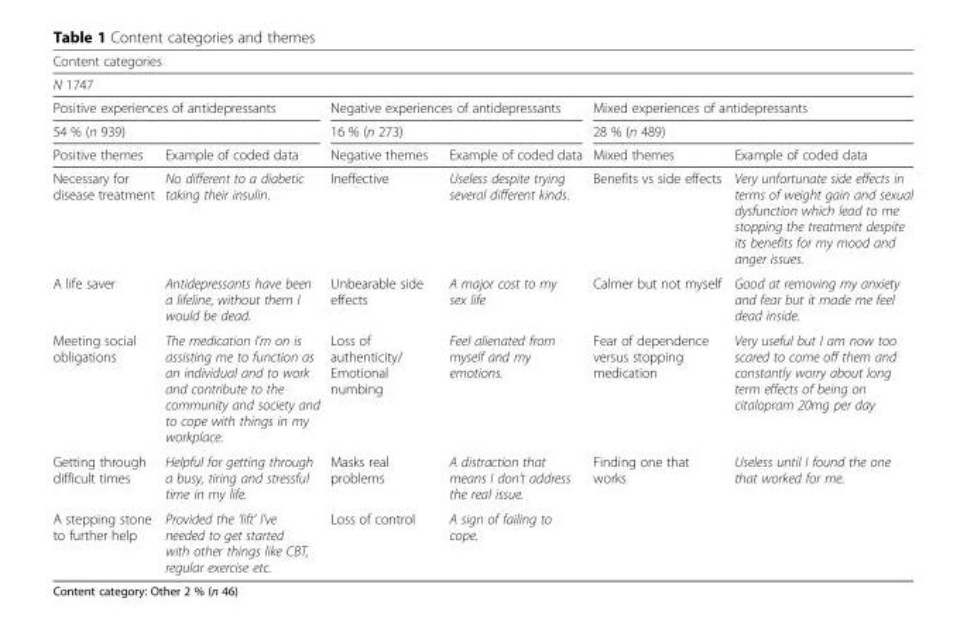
<table><thead><tr><td rowspan="2" colspan="6">Content categories N 1747</td></tr><tr></tr><tr><td rowspan="2" colspan="2">Positive experiences of antidepressants 54 % (n 939)</td><td rowspan="2" colspan="2">Negative experiences of antidepressants 16 % (n 273)</td><td rowspan="2" colspan="2">Mixed experiences of antidepressants 28 % (n 489)</td></tr><tr></tr><tr><td>Positive themes</td><td>Example of coded data</td><td>Negative themes</td><td>Example of coded data</td><td>Mixed themes</td><td>Example of coded data</td></tr></thead><tbody><tr><td>Necessary for disease treatment</td><td>No different to a diabetic taking their insulin.</td><td>Ineffective</td><td>Useless despite trying several different kinds.</td><td>Benefits vs side effects</td><td>Very unfortunate side effects in terms of weight gain and sexual dysfunction which lead to me stopping the treatment despite its benefits for my mood and anger issues.</td></tr><tr><td>A life saver</td><td>Antidepressants have been a lifeline, without them I would be dead.</td><td>Unbearable side effects</td><td>A major cost to my sex life</td><td>Calmer but not myself</td><td>Good at removing my anxiety and fear but it made me feel dead inside.</td></tr><tr><td>Meeting social obligations</td><td>The medication I’m on is assisting me to function as an individual and to work and contribute to the community and society and to cope with things in my workplace.</td><td>Loss of authenticity/ Emotional numbing</td><td>Feel alienated from myself and my emotions.</td><td>Fear of dependence versus stopping medication</td><td>Very useful but I am now too scared to come off them and constantly worry about long term effects of being on citalopram 20mg per day</td></tr><tr><td>Getting through difficult times</td><td>Helpful for getting through a busy, tiring and stressful time in my life.</td><td>Masks real problems</td><td>A distraction that means I don’t address the real issue.</td><td>Finding one that works</td><td>Useless until I found the one that worked for me.</td></tr><tr><td>A stepping stone to further help</td><td>Provided the ‘lift’ I’ve needed to get started with other things like CBT, regular exercise etc.</td><td>Loss of control</td><td>A sign of failing to cope.</td><td></td><td></td></tr></tbody></table>